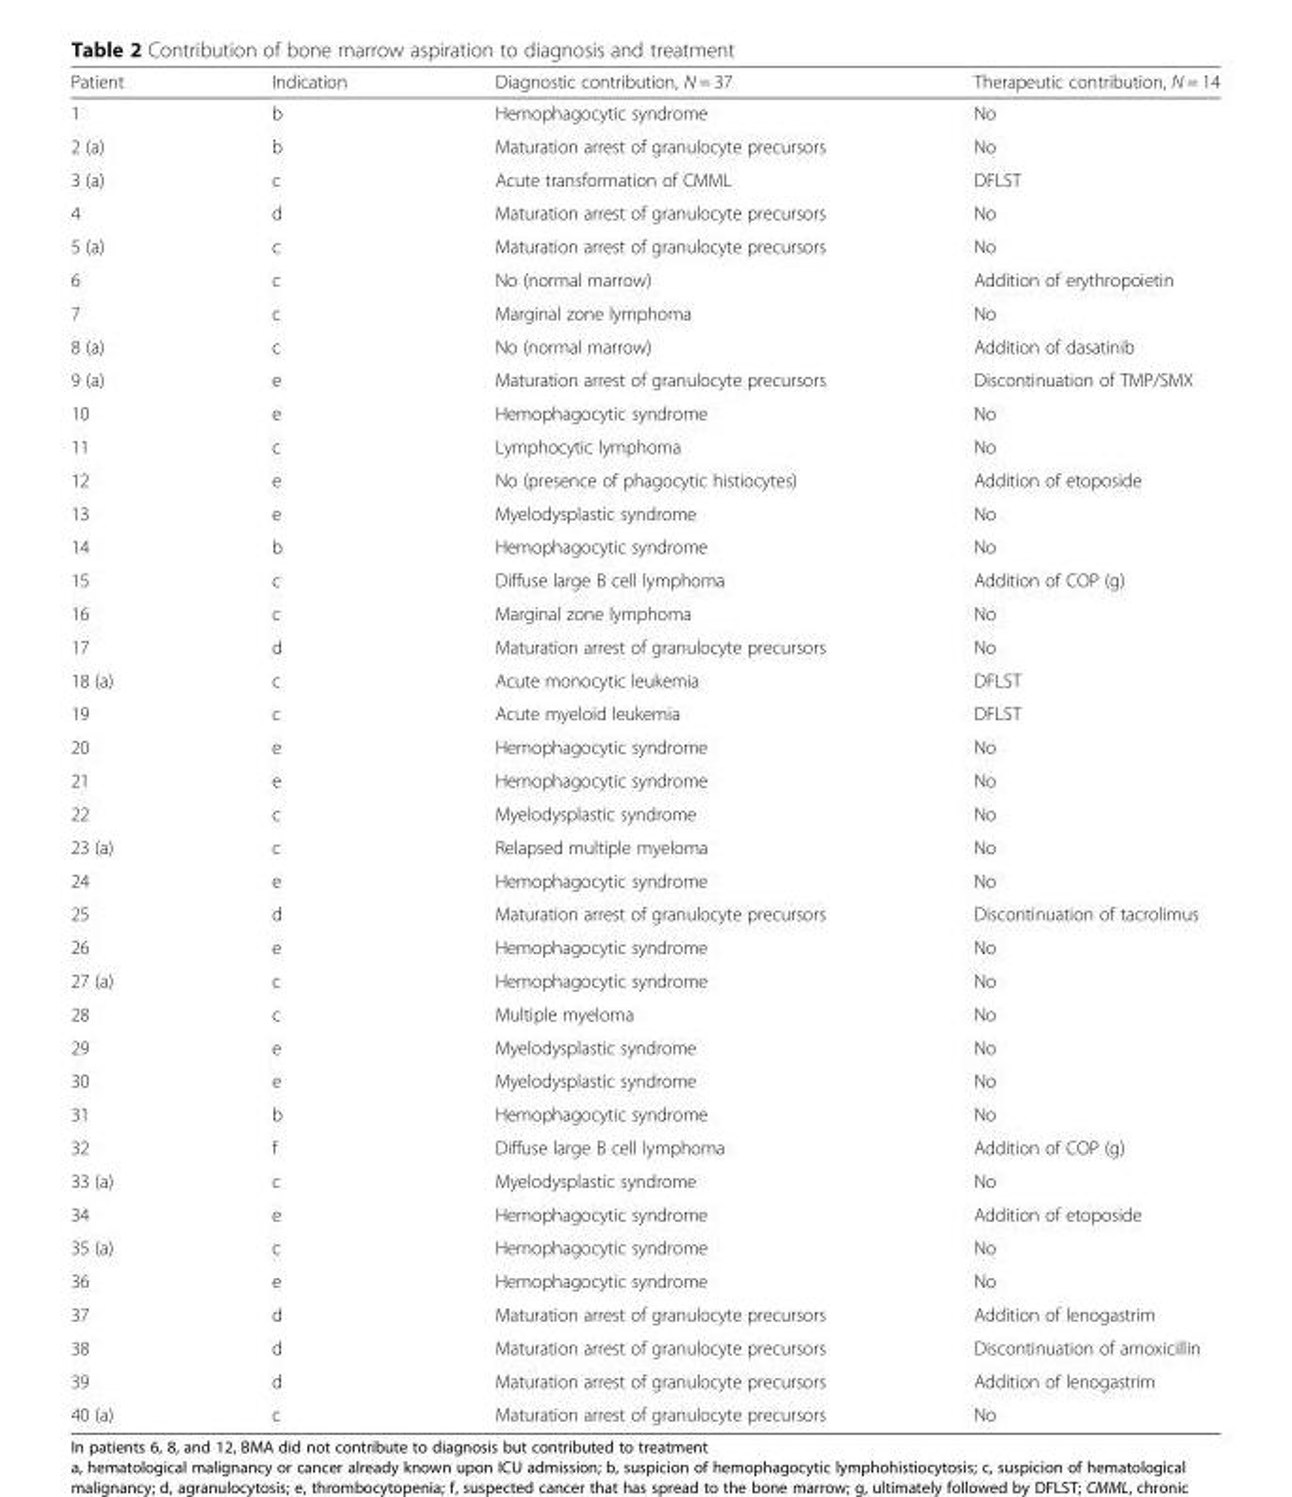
<table><thead><tr><td>Patient</td><td>Indication</td><td>Diagnostic contribution, N = 37</td><td>Therapeutic contribution, N = 14</td></tr></thead><tbody><tr><td>1</td><td>b</td><td>Hemophagocytic syndrome</td><td>No</td></tr><tr><td>2 (a)</td><td>b</td><td>Maturation arrest of granulocyte precursors</td><td>No</td></tr><tr><td>3 (a)</td><td>c</td><td>Acute transformation of CMML</td><td>DFLST</td></tr><tr><td>4</td><td>d</td><td>Maturation arrest of granulocyte precursors</td><td>No</td></tr><tr><td>5 (a)</td><td>c</td><td>Maturation arrest of granulocyte precursors</td><td>No</td></tr><tr><td>6</td><td>c</td><td>No (normal marrow)</td><td>Addition of erythropoietin</td></tr><tr><td>7</td><td>c</td><td>Marginal zone lymphoma</td><td>No</td></tr><tr><td>8 (a)</td><td>c</td><td>No (normal marrow)</td><td>Addition of dasatinib</td></tr><tr><td>9 (a)</td><td>e</td><td>Maturation arrest of granulocyte precursors</td><td>Discontinuation of TMP/SMX</td></tr><tr><td>10</td><td>e</td><td>Hemophagocytic syndrome</td><td>No</td></tr><tr><td>11</td><td>c</td><td>Lymphocytic lymphoma</td><td>No</td></tr><tr><td>12</td><td>e</td><td>No (presence of phagocytic histiocytes)</td><td>Addition of etoposide</td></tr><tr><td>13</td><td>e</td><td>Myelodysplastic syndrome</td><td>No</td></tr><tr><td>14</td><td>b</td><td>Hemophagocytic syndrome</td><td>No</td></tr><tr><td>15</td><td>c</td><td>Diffuse large B cell lymphoma</td><td>Addition of COP (g)</td></tr><tr><td>16</td><td>c</td><td>Marginal zone lymphoma</td><td>No</td></tr><tr><td>17</td><td>d</td><td>Maturation arrest of granulocyte precursors</td><td>No</td></tr><tr><td>18 (a)</td><td>c</td><td>Acute monocytic leukemia</td><td>DFLST</td></tr><tr><td>19</td><td>c</td><td>Acute myeloid leukemia</td><td>DFLST</td></tr><tr><td>20</td><td>e</td><td>Hemophagocytic syndrome</td><td>No</td></tr><tr><td>21</td><td>e</td><td>Hemophagocytic syndrome</td><td>No</td></tr><tr><td>22</td><td>c</td><td>Myelodysplastic syndrome</td><td>No</td></tr><tr><td>23 (a)</td><td>c</td><td>Relapsed multiple myeloma</td><td>No</td></tr><tr><td>24</td><td>e</td><td>Hemophagocytic syndrome</td><td>No</td></tr><tr><td>25</td><td>d</td><td>Maturation arrest of granulocyte precursors</td><td>Discontinuation of tacrolimus</td></tr><tr><td>26</td><td>e</td><td>Hemophagocytic syndrome</td><td>No</td></tr><tr><td>27 (a)</td><td>c</td><td>Hemophagocytic syndrome</td><td>No</td></tr><tr><td>28</td><td>c</td><td>Multiple myeloma</td><td>No</td></tr><tr><td>29</td><td>e</td><td>Myelodysplastic syndrome</td><td>No</td></tr><tr><td>30</td><td>e</td><td>Myelodysplastic syndrome</td><td>No</td></tr><tr><td>31</td><td>b</td><td>Hemophagocytic syndrome</td><td>No</td></tr><tr><td>32</td><td>f</td><td>Diffuse large B cell lymphoma</td><td>Addition of COP (g)</td></tr><tr><td>33 (a)</td><td>c</td><td>Myelodysplastic syndrome</td><td>No</td></tr><tr><td>34</td><td>e</td><td>Hemophagocytic syndrome</td><td>Addition of etoposide</td></tr><tr><td>35 (a)</td><td>c</td><td>Hemophagocytic syndrome</td><td>No</td></tr><tr><td>36</td><td>e</td><td>Hemophagocytic syndrome</td><td>No</td></tr><tr><td>37</td><td>d</td><td>Maturation arrest of granulocyte precursors</td><td>Addition of lenogastrim</td></tr><tr><td>38</td><td>d</td><td>Maturation arrest of granulocyte precursors</td><td>Discontinuation of amoxicillin</td></tr><tr><td>39</td><td>d</td><td>Maturation arrest of granulocyte precursors</td><td>Addition of lenogastrim</td></tr><tr><td>40 (a)</td><td>c</td><td>Maturation arrest of granulocyte precursors</td><td>No</td></tr></tbody></table>